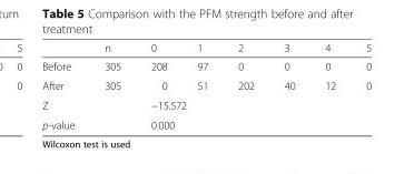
<table><thead><tr><td></td><td>n</td><td>0</td><td>1</td><td>2</td><td>3</td><td>4</td><td>5</td></tr></thead><tbody><tr><td>Before</td><td>305</td><td>208</td><td>97</td><td>0</td><td>0</td><td>0</td><td>0</td></tr><tr><td>After</td><td>305</td><td>0</td><td>51</td><td>202</td><td>40</td><td>12</td><td>0</td></tr><tr><td>Z</td><td></td><td colspan="6">−15.572</td></tr><tr><td>p-value</td><td></td><td colspan="6">0.000</td></tr></tbody></table>